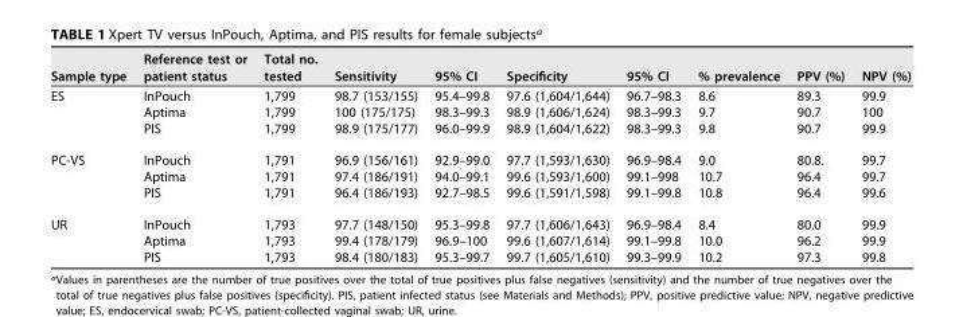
<table><thead><tr><td>Sample type</td><td>Reference test or patient status</td><td>Total no. tested</td><td>Sensitivity</td><td>95% CI</td><td>Specificity</td><td>95% CI</td><td>% prevalence</td><td>PPV (%)</td><td>NPV (%)</td></tr></thead><tbody><tr><td rowspan="3">ES</td><td>InPouch</td><td>1,799</td><td>98.7 (153/155)</td><td>95.4–99.8</td><td>97.6 (1,604/1,644)</td><td>96.7–98.3</td><td>8.6</td><td>89.3</td><td>99.9</td></tr><tr><td>Aptima</td><td>1,799</td><td>100 (175/175)</td><td>98.3–99.3</td><td>98.9 (1,606/1,624)</td><td>98.3–99.3</td><td>9.7</td><td>90.7</td><td>100</td></tr><tr><td>PIS</td><td>1,799</td><td>98.9 (175/177)</td><td>96.0–99.9</td><td>98.9 (1,604/1,622)</td><td>98.3–99.3</td><td>9.8</td><td>90.7</td><td>99.9</td></tr><tr><td rowspan="3">PC-VS</td><td>InPouch</td><td>1,791</td><td>96.9 (156/161)</td><td>92.9–99.0</td><td>97.7 (1,593/1,630)</td><td>96.9–98.4</td><td>9.0</td><td>80.8.</td><td>99.7</td></tr><tr><td>Aptima</td><td>1,791</td><td>97.4 (186/191)</td><td>94.0–99.1</td><td>99.6 (1,593/1,600)</td><td>99.1–998</td><td>10.7</td><td>96.4</td><td>99.7</td></tr><tr><td>PIS</td><td>1,791</td><td>96.4 (186/193)</td><td>92.7–98.5</td><td>99.6 (1,591/1,598)</td><td>99.1–99.8</td><td>10.8</td><td>96.4</td><td>99.6</td></tr><tr><td rowspan="3">UR</td><td>InPouch</td><td>1,793</td><td>97.7 (148/150)</td><td>95.3–99.8</td><td>97.7 (1,606/1,643)</td><td>96.9–98.4</td><td>8.4</td><td>80.0</td><td>99.9</td></tr><tr><td>Aptima</td><td>1,793</td><td>99.4 (178/179)</td><td>96.9–100</td><td>99.6 (1,607/1,614)</td><td>99.1–99.8</td><td>10.0</td><td>96.2</td><td>99.9</td></tr><tr><td>PIS</td><td>1,793</td><td>98.4 (180/183)</td><td>95.3–99.7</td><td>99.7 (1,605/1,610)</td><td>99.3–99.9</td><td>10.2</td><td>97.3</td><td>99.8</td></tr></tbody></table>